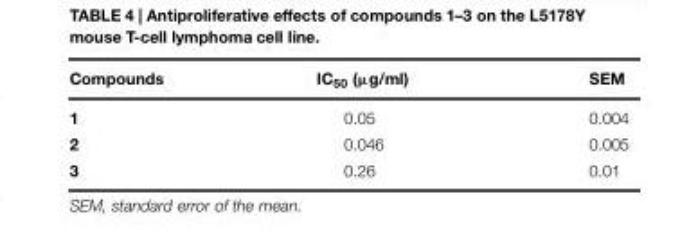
<table><thead><tr><td>Compounds</td><td>IC<sub>50</sub> (μg/ml)</td><td>SEM</td></tr></thead><tbody><tr><td>1</td><td>0.05</td><td>0.004</td></tr><tr><td>2</td><td>0.046</td><td>0.005</td></tr><tr><td>3</td><td>0.26</td><td>0.01</td></tr></tbody></table>